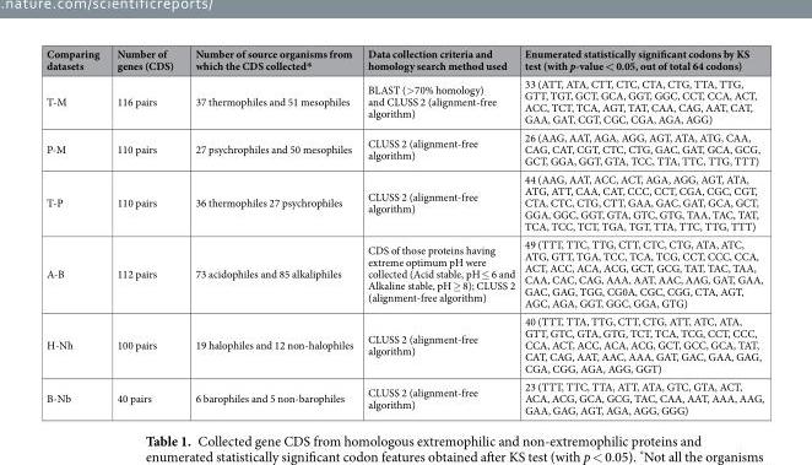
<table><thead><tr><td>Comparing datasets</td><td>Number of genes (CDS)</td><td>Number of source organisms from which the CDS collected*</td><td>Data collection criteria and homology search method used</td><td>Enumerated statistically significant codons by KS test (with p-value &lt; 0.05, out of total 64 codons)</td></tr></thead><tbody><tr><td>T-M</td><td>116 pairs</td><td>37 thermophiles and 51 mesophiles</td><td>BLAST (&gt;70% homology) and CLUSS 2 (alignment-free algorithm)</td><td>33 (ATT, ATA, CTT, CTC, CTA, CTG, TTA, TTG, GTT, TGT, GCT, GCA, GGT, GGC, CCT, CCA, ACT, ACC, TCT, TCA, AGT, TAT, CAA, CAG, AAT, CAT, GAA, GAT, CGT, CGC, CGA, AGA, AGG)</td></tr><tr><td>P-M</td><td>110 pairs</td><td>27 psychrophiles and 50 mesophiles</td><td>CLUSS 2 (alignment-free algorithm)</td><td>26 (AAG, AAT, AGA, AGG, AGT, ATA, ATG, CAA, CAG, CAT, CGT, CTC, CTG, GAC, GAT, GCA, GCG, GCT, GGA, GGT, GTA, TCC, TTA, TTC, TTG, TTT)</td></tr><tr><td>T-P</td><td>110 pairs</td><td>36 thermophiles 27 psychrophiles</td><td>CLUSS 2 (alignment-free algorithm)</td><td>44 (AAG, AAT, ACC, ACT, AGA, AGG, AGT, ATA, ATG, ATT, CAA, CAT, CCC, CCT, CGA, CGC, CGT, CTA, CTC, CTG, CTT, GAA, GAC, GAT, GCA, GCT, GGA, GGC, GGT, GTA, GTC, GTG, TAA, TAC, TAT, TCA, TCC, TCT, TGA, TGT, TTA, TTC, TTG, TTT)</td></tr><tr><td>A-B</td><td>112 pairs</td><td>73 acidophiles and 85 alkaliphiles</td><td>CDS of those proteins having extreme optimum pH were collected (Acid stable, pH ≤ 6 and Alkaline stable, pH ≥ 8); CLUSS 2 (alignment-free algorithm)</td><td>49 (TTT, TTC, TTG, CTT, CTC, CTG, ATA, ATC, ATG, GTT, TGA, TCC, TCA, TCG, CCT, CCC, CCA, ACT, ACC, ACA, ACG, GCT, GCG, TAT, TAC, TAA, CAA, CAC, CAG, AAA, AAT, AAC, AAG, GAT, GAA, GAC, GAG, TGG, CG0A, CGC, CGG, CTA, AGT, AGC, AGA, GGT, GGC, GGA, GTG)</td></tr><tr><td>H-Nh</td><td>100 pairs</td><td>19 halophiles and 12 non-halophiles</td><td>CLUSS 2 (alignment-free algorithm)</td><td>40 (TTT, TTA, TTG, CTT, CTG, ATT, ATC, ATA, GTT, GTC, GTA, GTG, TCT, TCA, TCG, CCT, CCC, CCA, ACT, ACC, ACA, ACG, GCT, GCC, GCA, TAT, CAT, CAG, AAT, AAC, AAA, GAT, GAC, GAA, GAG, CGA, CGG, AGA, AGG, GGT)</td></tr><tr><td>B-Nb</td><td>40 pairs</td><td>6 barophiles and 5 non-barophiles</td><td>CLUSS 2 (alignment-free algorithm)</td><td>23 (TTT, TTC, TTA, ATT, ATA, GTC, GTA, ACT, ACA, ACG, GCA, GCG, TAC, CAA, AAT, AAA, AAG, GAA, GAG, AGT, AGA, AGG, GGG)</td></tr></tbody></table>